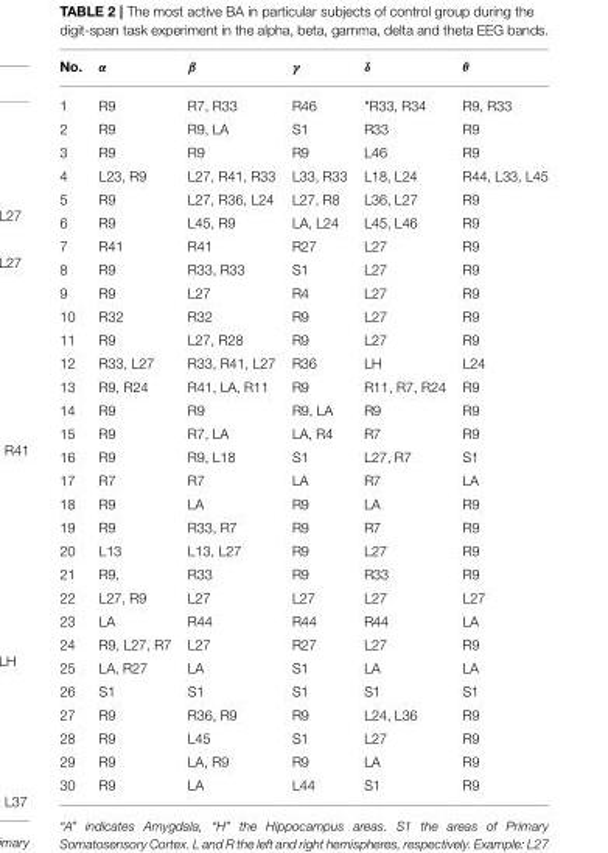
<table><thead><tr><td>No.</td><td>α</td><td>β</td><td>γ</td><td>δ</td><td>θ</td></tr></thead><tbody><tr><td>1</td><td>R9</td><td>R7, R33</td><td>R46</td><td>&quot;R33, R34</td><td>R9, R33</td></tr><tr><td>2</td><td>R9</td><td>R9, LA</td><td>S1</td><td>R33</td><td>R9</td></tr><tr><td>3</td><td>R9</td><td>R9</td><td>R9</td><td>L46</td><td>R9</td></tr><tr><td>4</td><td>L23, R9</td><td>L27, R41, R33</td><td>L33, R33</td><td>L18, L24</td><td>R44, L33, L45</td></tr><tr><td>5</td><td>R9</td><td>L27, R36, L24</td><td>L27, R8</td><td>L36, L27</td><td>R9</td></tr><tr><td>6</td><td>R9</td><td>L45, R9</td><td>LA, L24</td><td>L45, L46</td><td>R9</td></tr><tr><td>7</td><td>R41</td><td>R41</td><td>R27</td><td>L27</td><td>R9</td></tr><tr><td>8</td><td>R9</td><td>R33, R33</td><td>S1</td><td>L27</td><td>R9</td></tr><tr><td>9</td><td>R9</td><td>L27</td><td>R4</td><td>L27</td><td>R9</td></tr><tr><td>10</td><td>R32</td><td>R32</td><td>R9</td><td>L27</td><td>R9</td></tr><tr><td>11</td><td>R9</td><td>L27, R28</td><td>R9</td><td>L27</td><td>R9</td></tr><tr><td>12</td><td>R33, L27</td><td>R33, R41, L27</td><td>R36</td><td>LH</td><td>L24</td></tr><tr><td>13</td><td>R9, R24</td><td>R41, LA, R11</td><td>R9</td><td>R11, R7, R24</td><td>R9</td></tr><tr><td>14</td><td>R9</td><td>R9</td><td>R9, LA</td><td>R9</td><td>R9</td></tr><tr><td>15</td><td>R9</td><td>R7, LA</td><td>LA, R4</td><td>R7</td><td>R9</td></tr><tr><td>16</td><td>R9</td><td>R9, L18</td><td>S1</td><td>L27, R7</td><td>S1</td></tr><tr><td>17</td><td>R7</td><td>R7</td><td>LA</td><td>R7</td><td>LA</td></tr><tr><td>18</td><td>R9</td><td>LA</td><td>R9</td><td>LA</td><td>R9</td></tr><tr><td>19</td><td>R9</td><td>R33, R7</td><td>R9</td><td>R7</td><td>R9</td></tr><tr><td>20</td><td>L13</td><td>L13, L27</td><td>R9</td><td>L27</td><td>R9</td></tr><tr><td>21</td><td>R9,</td><td>R33</td><td>R9</td><td>R33</td><td>R9</td></tr><tr><td>22</td><td>L27, R9</td><td>L27</td><td>L27</td><td>L27</td><td>L27</td></tr><tr><td>23</td><td>LA</td><td>R44</td><td>R44</td><td>R44</td><td>LA</td></tr><tr><td>24</td><td>R9, L27, R7</td><td>L27</td><td>R27</td><td>L27</td><td>R9</td></tr><tr><td>25</td><td>LA, R27</td><td>LA</td><td>S1</td><td>LA</td><td>LA</td></tr><tr><td>26</td><td>S1</td><td>S1</td><td>S1</td><td>S1</td><td>S1</td></tr><tr><td>27</td><td>R9</td><td>R36, R9</td><td>R9</td><td>L24, L36</td><td>R9</td></tr><tr><td>28</td><td>R9</td><td>L45</td><td>S1</td><td>L27</td><td>R9</td></tr><tr><td>29</td><td>R9</td><td>LA, R9</td><td>R9</td><td>LA</td><td>R9</td></tr><tr><td>30</td><td>R9</td><td>LA</td><td>L44</td><td>S1</td><td>R9</td></tr></tbody></table>